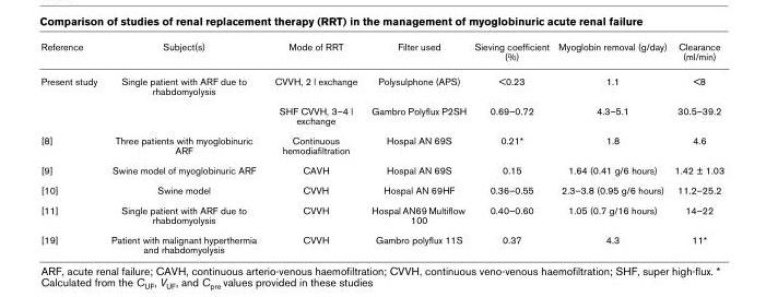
<table><thead><tr><td>Reference</td><td>Subject(s)</td><td>Mode of RRT</td><td>Filter used</td><td>Sieving coefficient (%)</td><td>Myoglobin removal (g/day)</td><td>Clearance (ml/min)</td></tr></thead><tbody><tr><td rowspan="2">Present study</td><td>Single patient with ARF due to rhabdomyolysis</td><td>CVVH, 2 l exchange</td><td>Polysulphone (APS)</td><td>&lt;0.23</td><td>1.1</td><td>&lt;8</td></tr><tr><td></td><td>SHF CVVH, 3–4 l exchange</td><td>Gambro Polyflux P2SH</td><td>0.69–0.72</td><td>4.3–5.1</td><td>30.5–39.2</td></tr><tr><td>[8]</td><td>Three patients with myoglobinuric ARF</td><td>Continuous hemodiafiltration</td><td>Hospal AN 69S</td><td>0.21*</td><td>1.8</td><td>4.6</td></tr><tr><td>[9]</td><td>Swine model of myoglobinuric ARF</td><td>CAVH</td><td>Hospal AN 69S</td><td>0.15</td><td>1.64 (0.41 g/6 hours)</td><td>1.42 ± 1.03</td></tr><tr><td>[10]</td><td>Swine model</td><td>CVVH</td><td>Hospal AN 69HF</td><td>0.36–0.55</td><td>2.3–3.8 (0.95 g/6 hours)</td><td>11.2–25.2</td></tr><tr><td>[11]</td><td>Single patient with ARF due to rhabdomyolysis</td><td>CVVH</td><td>Hospal AN69 Multiflow 100</td><td>0.40–0.60</td><td>1.05 (0.7 g/16 hours)</td><td>14–22</td></tr><tr><td>[19]</td><td>Patient with malignant hyperthermia and rhabdomyolysis</td><td>CVVH</td><td>Gambro polyflux 11S</td><td>0.37</td><td>4.3</td><td>11*</td></tr></tbody></table>